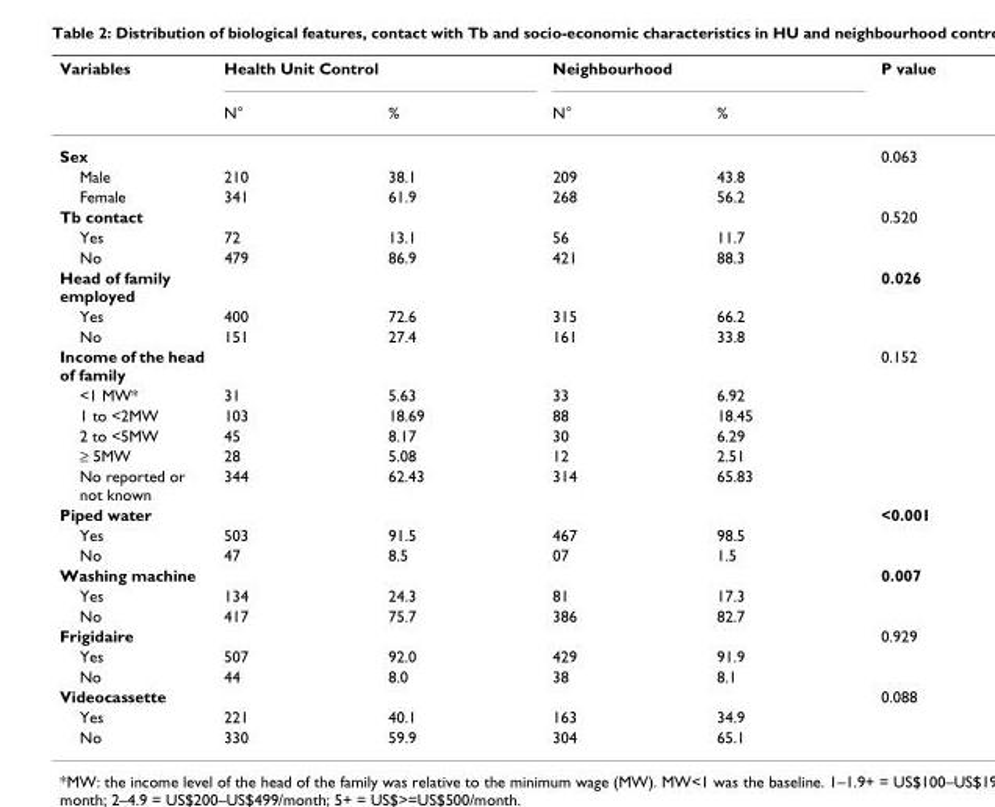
<table><thead><tr><td rowspan="2">Variables</td><td colspan="2">Health Unit Control</td><td colspan="2">Neighbourhood</td><td rowspan="2">P value</td></tr><tr><td>N°</td><td>%</td><td>N°</td><td>%</td></tr></thead><tbody><tr><td>Sex</td><td></td><td></td><td></td><td></td><td>0.063</td></tr><tr><td>Male</td><td>210</td><td>38.1</td><td>209</td><td>43.8</td><td></td></tr><tr><td>Female</td><td>341</td><td>61.9</td><td>268</td><td>56.2</td><td></td></tr><tr><td>Tb contact</td><td></td><td></td><td></td><td></td><td>0.520</td></tr><tr><td>Yes</td><td>72</td><td>13.1</td><td>56</td><td>11.7</td><td></td></tr><tr><td>No</td><td>479</td><td>86.9</td><td>421</td><td>88.3</td><td></td></tr><tr><td>Head of family employed</td><td></td><td></td><td></td><td></td><td>0.026</td></tr><tr><td>Yes</td><td>400</td><td>72.6</td><td>315</td><td>66.2</td><td></td></tr><tr><td>No</td><td>151</td><td>27.4</td><td>161</td><td>33.8</td><td></td></tr><tr><td>Income of the head of family</td><td></td><td></td><td></td><td></td><td>0.152</td></tr><tr><td>&lt;1 MW*</td><td>31</td><td>5.63</td><td>33</td><td>6.92</td><td></td></tr><tr><td>1 to &lt;2MW</td><td>103</td><td>18.69</td><td>88</td><td>18.45</td><td></td></tr><tr><td>2 to &lt;5MW</td><td>45</td><td>8.17</td><td>30</td><td>6.29</td><td></td></tr><tr><td>≥ 5MW</td><td>28</td><td>5.08</td><td>12</td><td>2.51</td><td></td></tr><tr><td>No reported or not known</td><td>344</td><td>62.43</td><td>314</td><td>65.83</td><td></td></tr><tr><td>Piped water</td><td></td><td></td><td></td><td></td><td>&lt;0.001</td></tr><tr><td>Yes</td><td>503</td><td>91.5</td><td>467</td><td>98.5</td><td></td></tr><tr><td>No</td><td>47</td><td>8.5</td><td>07</td><td>1.5</td><td></td></tr><tr><td>Washing machine</td><td></td><td></td><td></td><td></td><td>0.007</td></tr><tr><td>Yes</td><td>134</td><td>24.3</td><td>81</td><td>17.3</td><td></td></tr><tr><td>No</td><td>417</td><td>75.7</td><td>386</td><td>82.7</td><td></td></tr><tr><td>Frigidaire</td><td></td><td></td><td></td><td></td><td>0.929</td></tr><tr><td>Yes</td><td>507</td><td>92.0</td><td>429</td><td>91.9</td><td></td></tr><tr><td>No</td><td>44</td><td>8.0</td><td>38</td><td>8.1</td><td></td></tr><tr><td>Videocassette</td><td></td><td></td><td></td><td></td><td>0.088</td></tr><tr><td>Yes</td><td>221</td><td>40.1</td><td>163</td><td>34.9</td><td></td></tr><tr><td>No</td><td>330</td><td>59.9</td><td>304</td><td>65.1</td><td></td></tr></tbody></table>